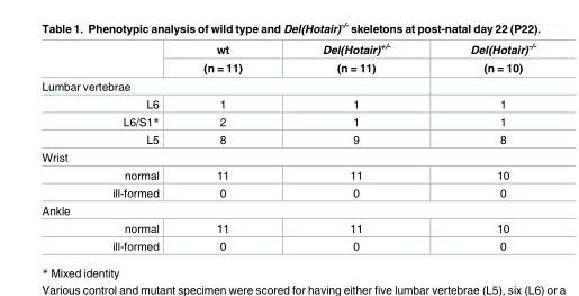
<table><thead><tr><td rowspan="2"></td><td rowspan="2">wt (n = 11)</td><td rowspan="2">Del(Hotair)<sup>+/-</sup> (n = 11)</td><td rowspan="2">Del(Hotair)<sup>-/-</sup> (n = 10)</td></tr><tr></tr></thead><tbody><tr><td colspan="4">Lumbar vertebrae</td></tr><tr><td>L6</td><td>1</td><td>1</td><td>1</td></tr><tr><td>L6/S1*</td><td>2</td><td>1</td><td>1</td></tr><tr><td>L5</td><td>8</td><td>9</td><td>8</td></tr><tr><td colspan="4">Wrist</td></tr><tr><td>normal</td><td>11</td><td>11</td><td>10</td></tr><tr><td>ill-formed</td><td>0</td><td>0</td><td>0</td></tr><tr><td colspan="4">Ankle</td></tr><tr><td>normal</td><td>11</td><td>11</td><td>10</td></tr><tr><td>ill-formed</td><td>0</td><td>0</td><td>0</td></tr></tbody></table>